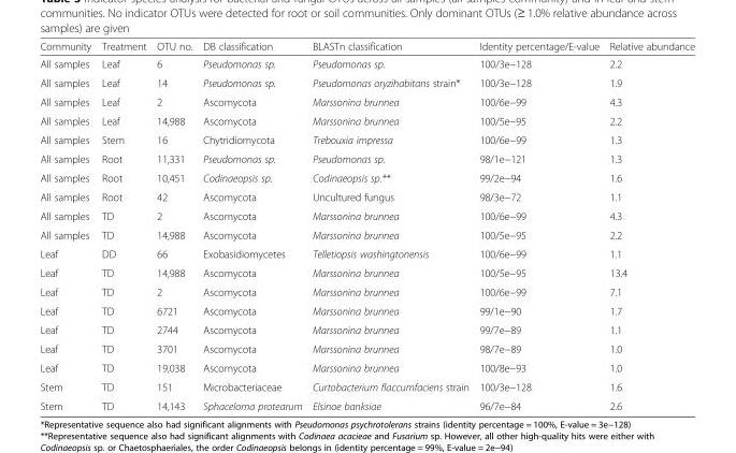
<table><thead><tr><td>Community</td><td>Treatment</td><td>OTU no.</td><td>DB classification</td><td>BLASTn classification</td><td>Identity percentage/E-value</td><td>Relative abundance</td></tr></thead><tbody><tr><td>All samples</td><td>Leaf</td><td>6</td><td>Pseudomonas sp.</td><td>Pseudomonas sp.</td><td>100/3e−128</td><td>2.2</td></tr><tr><td>All samples</td><td>Leaf</td><td>14</td><td>Pseudomonas sp.</td><td>Pseudomonas oryzihabitans strain*</td><td>100/3e−128</td><td>1.9</td></tr><tr><td>All samples</td><td>Leaf</td><td>2</td><td>Ascomycota</td><td>Marssonina brunnea</td><td>100/6e−99</td><td>4.3</td></tr><tr><td>All samples</td><td>Leaf</td><td>14,988</td><td>Ascomycota</td><td>Marssonina brunnea</td><td>100/5e−95</td><td>2.2</td></tr><tr><td>All samples</td><td>Stem</td><td>16</td><td>Chytridiomycota</td><td>Trebouxia impressa</td><td>100/6e−99</td><td>1.3</td></tr><tr><td>All samples</td><td>Root</td><td>11,331</td><td>Pseudomonas sp.</td><td>Pseudomonas sp.</td><td>98/1e−121</td><td>1.3</td></tr><tr><td>All samples</td><td>Root</td><td>10,451</td><td>Codinaeopsis sp.</td><td>Codinaeopsis sp.**</td><td>99/2e−94</td><td>1.6</td></tr><tr><td>All samples</td><td>Root</td><td>42</td><td>Ascomycota</td><td>Uncultured fungus</td><td>98/3e−72</td><td>1.1</td></tr><tr><td>All samples</td><td>TD</td><td>2</td><td>Ascomycota</td><td>Marssonina brunnea</td><td>100/6e−99</td><td>4.3</td></tr><tr><td>All samples</td><td>TD</td><td>14,988</td><td>Ascomycota</td><td>Marssonina brunnea</td><td>100/5e−95</td><td>2.2</td></tr><tr><td>Leaf</td><td>DD</td><td>66</td><td>Exobasidiomycetes</td><td>Telletiopsis washingtonensis</td><td>100/6e−99</td><td>1.1</td></tr><tr><td>Leaf</td><td>TD</td><td>14,988</td><td>Ascomycota</td><td>Marssonina brunnea</td><td>100/5e−95</td><td>13.4</td></tr><tr><td>Leaf</td><td>TD</td><td>2</td><td>Ascomycota</td><td>Marssonina brunnea</td><td>100/6e−99</td><td>7.1</td></tr><tr><td>Leaf</td><td>TD</td><td>6721</td><td>Ascomycota</td><td>Marssonina brunnea</td><td>99/1e−90</td><td>1.7</td></tr><tr><td>Leaf</td><td>TD</td><td>2744</td><td>Ascomycota</td><td>Marssonina brunnea</td><td>99/7e−89</td><td>1.1</td></tr><tr><td>Leaf</td><td>TD</td><td>3701</td><td>Ascomycota</td><td>Marssonina brunnea</td><td>98/7e−89</td><td>1.0</td></tr><tr><td>Leaf</td><td>TD</td><td>19,038</td><td>Ascomycota</td><td>Marssonina brunnea</td><td>100/8e−93</td><td>1.0</td></tr><tr><td>Stem</td><td>TD</td><td>151</td><td>Microbacteriaceae</td><td>Curtobacterium flaccumfaciens strain</td><td>100/3e−128</td><td>1.6</td></tr><tr><td>Stem</td><td>TD</td><td>14,143</td><td>Sphaceloma protearum</td><td>Elsinoe banksiae</td><td>96/7e−84</td><td>2.6</td></tr></tbody></table>